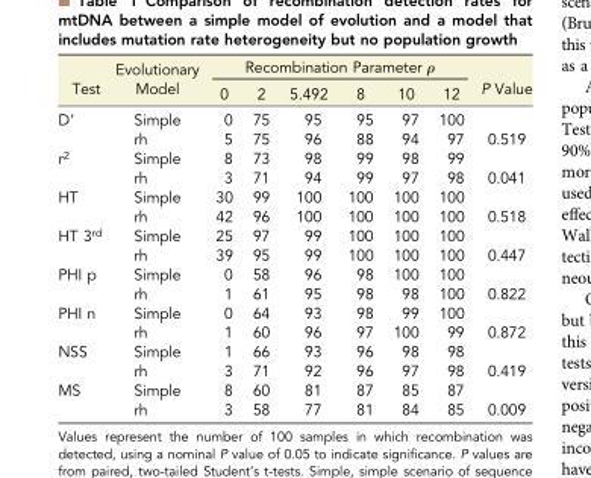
<table><thead><tr><td rowspan="2">Test</td><td rowspan="2">Evolutionary Model</td><td colspan="6">Recombination Parameter ρ</td><td rowspan="2">P Value</td></tr><tr><td>0</td><td>2</td><td>5.492</td><td>8</td><td>10</td><td>12</td></tr></thead><tbody><tr><td rowspan="2">D′</td><td>Simple</td><td>0</td><td>75</td><td>95</td><td>95</td><td>97</td><td>100</td><td></td></tr><tr><td>rh</td><td>5</td><td>75</td><td>96</td><td>88</td><td>94</td><td>97</td><td>0.519</td></tr><tr><td rowspan="2">r<sup>2</sup></td><td>Simple</td><td>8</td><td>73</td><td>98</td><td>99</td><td>98</td><td>99</td><td></td></tr><tr><td>rh</td><td>3</td><td>71</td><td>94</td><td>99</td><td>97</td><td>98</td><td>0.041</td></tr><tr><td rowspan="2">HT</td><td>Simple</td><td>30</td><td>99</td><td>100</td><td>100</td><td>100</td><td>100</td><td></td></tr><tr><td>rh</td><td>42</td><td>96</td><td>100</td><td>100</td><td>100</td><td>100</td><td>0.518</td></tr><tr><td rowspan="2">HT 3<sup>rd</sup></td><td>Simple</td><td>25</td><td>97</td><td>99</td><td>100</td><td>100</td><td>100</td><td></td></tr><tr><td>rh</td><td>39</td><td>95</td><td>99</td><td>100</td><td>100</td><td>100</td><td>0.447</td></tr><tr><td rowspan="2">PHI p</td><td>Simple</td><td>0</td><td>58</td><td>96</td><td>98</td><td>100</td><td>100</td><td></td></tr><tr><td>rh</td><td>1</td><td>61</td><td>95</td><td>98</td><td>98</td><td>100</td><td>0.822</td></tr><tr><td rowspan="2">PHI n</td><td>Simple</td><td>0</td><td>64</td><td>93</td><td>98</td><td>99</td><td>100</td><td></td></tr><tr><td>rh</td><td>1</td><td>60</td><td>96</td><td>97</td><td>100</td><td>99</td><td>0.872</td></tr><tr><td rowspan="2">NSS</td><td>Simple</td><td>1</td><td>66</td><td>93</td><td>96</td><td>98</td><td>98</td><td></td></tr><tr><td>rh</td><td>3</td><td>71</td><td>92</td><td>96</td><td>97</td><td>98</td><td>0.419</td></tr><tr><td rowspan="2">MS</td><td>Simple</td><td>8</td><td>60</td><td>81</td><td>87</td><td>85</td><td>87</td><td></td></tr><tr><td>rh</td><td>3</td><td>58</td><td>77</td><td>81</td><td>84</td><td>85</td><td>0.009</td></tr></tbody></table>